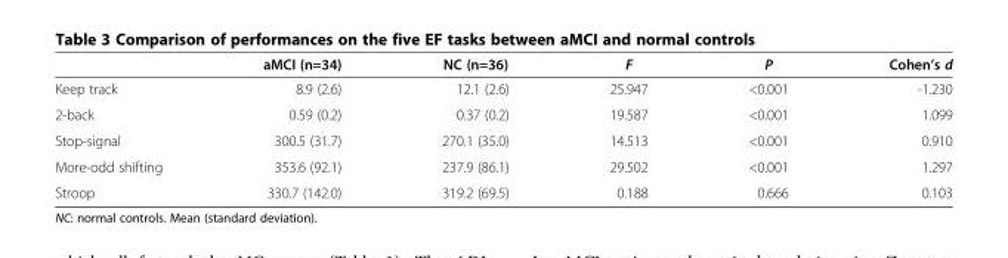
<table><thead><tr><td></td><td>aMCI (n=34)</td><td>NC (n=36)</td><td>F</td><td>P</td><td>Cohen’s d</td></tr></thead><tbody><tr><td>Keep track</td><td>8.9 (2.6)</td><td>12.1 (2.6)</td><td>25.947</td><td>&lt;0.001</td><td>-1.230</td></tr><tr><td>2-back</td><td>0.59 (0.2)</td><td>0.37 (0.2)</td><td>19.587</td><td>&lt;0.001</td><td>1.099</td></tr><tr><td>Stop-signal</td><td>300.5 (31.7)</td><td>270.1 (35.0)</td><td>14.513</td><td>&lt;0.001</td><td>0.910</td></tr><tr><td>More-odd shifting</td><td>353.6 (92.1)</td><td>237.9 (86.1)</td><td>29.502</td><td>&lt;0.001</td><td>1.297</td></tr><tr><td>Stroop</td><td>330.7 (142.0)</td><td>319.2 (69.5)</td><td>0.188</td><td>0.666</td><td>0.103</td></tr></tbody></table>